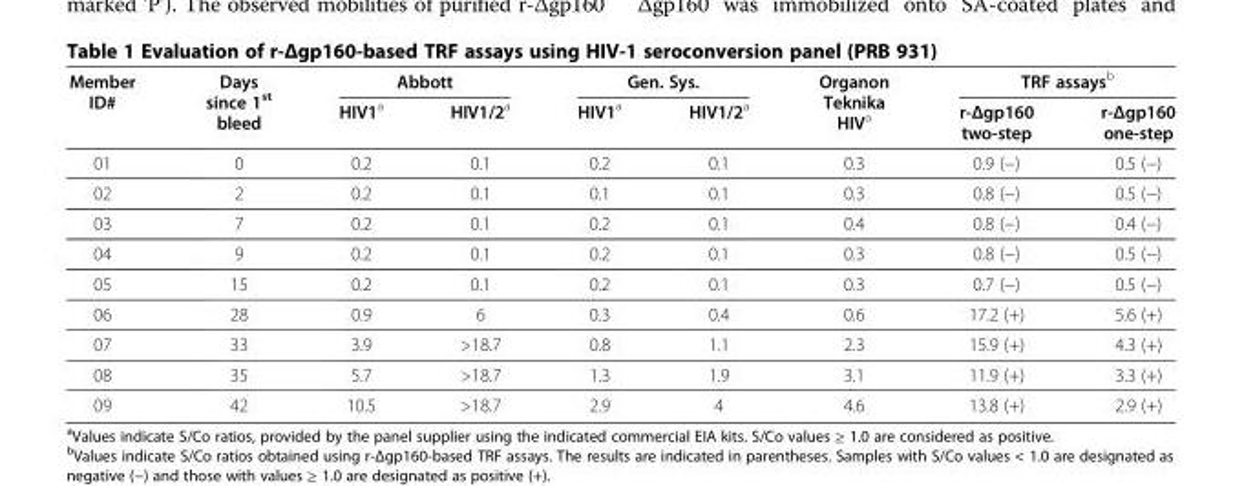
<table><thead><tr><td rowspan="2">Member ID#</td><td rowspan="2">Days since 1<sup>st</sup> bleed</td><td colspan="2">Abbott</td><td colspan="2">Gen. Sys.</td><td rowspan="2">Organon Teknika HIV<sup>a</sup></td><td colspan="2">TRF assays<sup>b</sup></td></tr><tr><td>HIV1<sup>a</sup></td><td>HIV1/2<sup>a</sup></td><td>HIV1<sup>a</sup></td><td>HIV1/2<sup>a</sup></td><td>r-Δgp160 two-step</td><td>r-Δgp160 one-step</td></tr></thead><tbody><tr><td>01</td><td>0</td><td>0.2</td><td>0.1</td><td>0.2</td><td>0.1</td><td>0.3</td><td>0.9 (−)</td><td>0.5 (−)</td></tr><tr><td>02</td><td>2</td><td>0.2</td><td>0.1</td><td>0.1</td><td>0.1</td><td>0.3</td><td>0.8 (−)</td><td>0.5 (−)</td></tr><tr><td>03</td><td>7</td><td>0.2</td><td>0.1</td><td>0.2</td><td>0.1</td><td>0.4</td><td>0.8 (−)</td><td>0.4 (−)</td></tr><tr><td>04</td><td>9</td><td>0.2</td><td>0.1</td><td>0.2</td><td>0.1</td><td>0.3</td><td>0.8 (−)</td><td>0.5 (−)</td></tr><tr><td>05</td><td>15</td><td>0.2</td><td>0.1</td><td>0.2</td><td>0.1</td><td>0.3</td><td>0.7 (−)</td><td>0.5 (−)</td></tr><tr><td>06</td><td>28</td><td>0.9</td><td>6</td><td>0.3</td><td>0.4</td><td>0.6</td><td>17.2 (+)</td><td>5.6 (+)</td></tr><tr><td>07</td><td>33</td><td>3.9</td><td>&gt;18.7</td><td>0.8</td><td>1.1</td><td>2.3</td><td>15.9 (+)</td><td>4.3 (+)</td></tr><tr><td>08</td><td>35</td><td>5.7</td><td>&gt;18.7</td><td>1.3</td><td>1.9</td><td>3.1</td><td>11.9 (+)</td><td>3.3 (+)</td></tr><tr><td>09</td><td>42</td><td>10.5</td><td>&gt;18.7</td><td>2.9</td><td>4</td><td>4.6</td><td>13.8 (+)</td><td>2.9 (+)</td></tr></tbody></table>